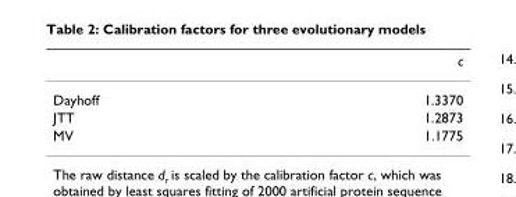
<table><thead><tr><td></td><td>c</td></tr></thead><tbody><tr><td>Dayhoff</td><td>1.3370</td></tr><tr><td>JTT</td><td>1.2873</td></tr><tr><td>MV</td><td>1.1775</td></tr></tbody></table>